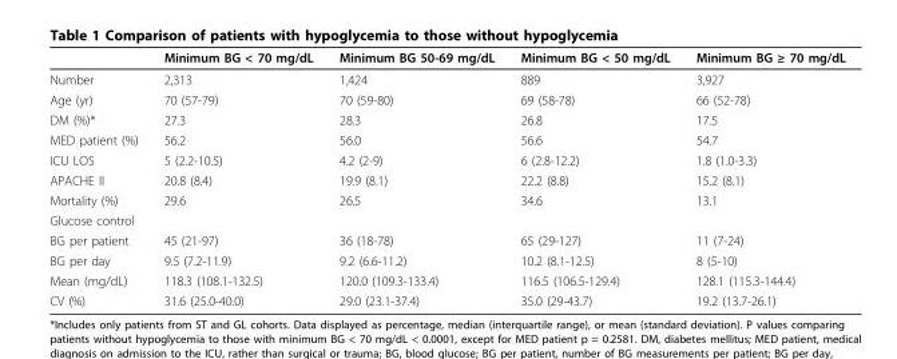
<table><thead><tr><td></td><td>Minimum BG &lt; 70 mg/dL</td><td>Minimum BG 50-69 mg/dL</td><td>Minimum BG &lt; 50 mg/dL</td><td>Minimum BG ≥ 70 mg/dL</td></tr></thead><tbody><tr><td>Number</td><td>2,313</td><td>1,424</td><td>889</td><td>3,927</td></tr><tr><td>Age (yr)</td><td>70 (57-79)</td><td>70 (59-80)</td><td>69 (58-78)</td><td>66 (52-78)</td></tr><tr><td>DM (%)*</td><td>27.3</td><td>28.3</td><td>26.8</td><td>17.5</td></tr><tr><td>MED patient (%)</td><td>56.2</td><td>56.0</td><td>56.6</td><td>54.7</td></tr><tr><td>ICU LOS</td><td>5 (2.2-10.5)</td><td>4.2 (2-9)</td><td>6 (2.8-12.2)</td><td>1.8 (1.0-3.3)</td></tr><tr><td>APACHE II</td><td>20.8 (8.4)</td><td>19.9 (8.1)</td><td>22.2 (8.8)</td><td>15.2 (8.1)</td></tr><tr><td>Mortality (%)</td><td>29.6</td><td>26.5</td><td>34.6</td><td>13.1</td></tr><tr><td colspan="5">Glucose control</td></tr><tr><td>BG per patient</td><td>45 (21-97)</td><td>36 (18-78)</td><td>65 (29-127)</td><td>11 (7-24)</td></tr><tr><td>BG per day</td><td>9.5 (7.2-11.9)</td><td>9.2 (6.6-11.2)</td><td>10.2 (8.1-12.5)</td><td>8 (5-10)</td></tr><tr><td>Mean (mg/dL)</td><td>118.3 (108.1-132.5)</td><td>120.0 (109.3-133.4)</td><td>116.5 (106.5-129.4)</td><td>128.1 (115.3-144.4)</td></tr><tr><td>CV (%)</td><td>31.6 (25.0-40.0)</td><td>29.0 (23.1-37.4)</td><td>35.0 (29-43.7)</td><td>19.2 (13.7-26.1)</td></tr></tbody></table>